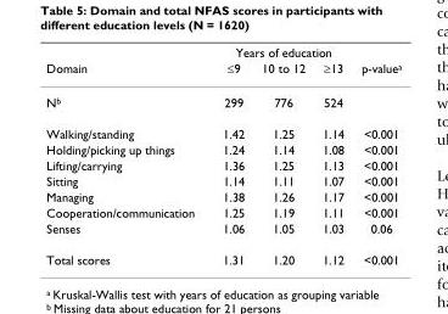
<table><thead><tr><td rowspan="2">Domain</td><td colspan="3">Years of education</td><td rowspan="2">p-value<sup>a</sup></td></tr><tr><td>≤9</td><td>10 to 12</td><td>≥13</td></tr></thead><tbody><tr><td>N<sup>b</sup></td><td>299</td><td>776</td><td>524</td><td></td></tr><tr><td>Walking/standing</td><td>1.42</td><td>1.25</td><td>1.14</td><td>&lt;0.001</td></tr><tr><td>Holding/picking up things</td><td>1.24</td><td>1.14</td><td>1.08</td><td>&lt;0.001</td></tr><tr><td>Lifting/carrying</td><td>1.36</td><td>1.25</td><td>1.13</td><td>&lt;0.001</td></tr><tr><td>Sitting</td><td>1.14</td><td>1.11</td><td>1.07</td><td>&lt;0.001</td></tr><tr><td>Managing</td><td>1.38</td><td>1.26</td><td>1.17</td><td>&lt;0.001</td></tr><tr><td>Cooperation/communication</td><td>1.25</td><td>1.19</td><td>1.11</td><td>&lt;0.001</td></tr><tr><td>Senses</td><td>1.06</td><td>1.05</td><td>1.03</td><td>0.06</td></tr><tr><td>Total scores</td><td>1.31</td><td>1.20</td><td>1.12</td><td>&lt;0.001</td></tr></tbody></table>